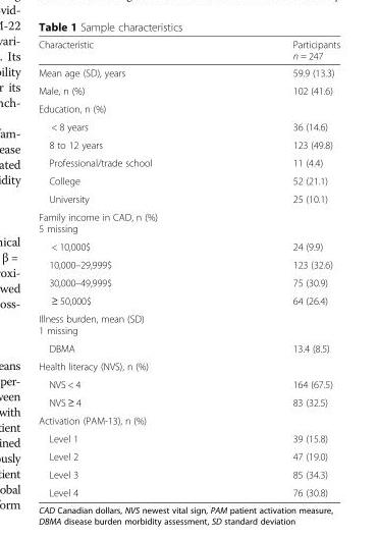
<table><thead><tr><td>Characteristic</td><td>Participants n = 247</td></tr></thead><tbody><tr><td>Mean age (SD), years</td><td>59.9 (13.3)</td></tr><tr><td>Male, n (%)</td><td>102 (41.6)</td></tr><tr><td colspan="2">Education, n (%)</td></tr><tr><td>&lt; 8 years</td><td>36 (14.6)</td></tr><tr><td>8 to 12 years</td><td>123 (49.8)</td></tr><tr><td>Professional/trade school</td><td>11 (4.4)</td></tr><tr><td>College</td><td>52 (21.1)</td></tr><tr><td>University</td><td>25 (10.1)</td></tr><tr><td colspan="2">Family income in CAD, n (%) 5 missing</td></tr><tr><td>&lt; 10,000$</td><td>24 (9.9)</td></tr><tr><td>10,000–29,999$</td><td>123 (32.6)</td></tr><tr><td>30,000–49,999$</td><td>75 (30.9)</td></tr><tr><td>≥ 50,000$</td><td>64 (26.4)</td></tr><tr><td colspan="2">Illness burden, mean (SD) 1 missing</td></tr><tr><td>DBMA</td><td>13.4 (8.5)</td></tr><tr><td colspan="2">Health literacy (NVS), n (%)</td></tr><tr><td>NVS &lt; 4</td><td>164 (67.5)</td></tr><tr><td>NVS ≥ 4</td><td>83 (32.5)</td></tr><tr><td colspan="2">Activation (PAM-13), n (%)</td></tr><tr><td>Level 1</td><td>39 (15.8)</td></tr><tr><td>Level 2</td><td>47 (19.0)</td></tr><tr><td>Level 3</td><td>85 (34.3)</td></tr><tr><td>Level 4</td><td>76 (30.8)</td></tr></tbody></table>